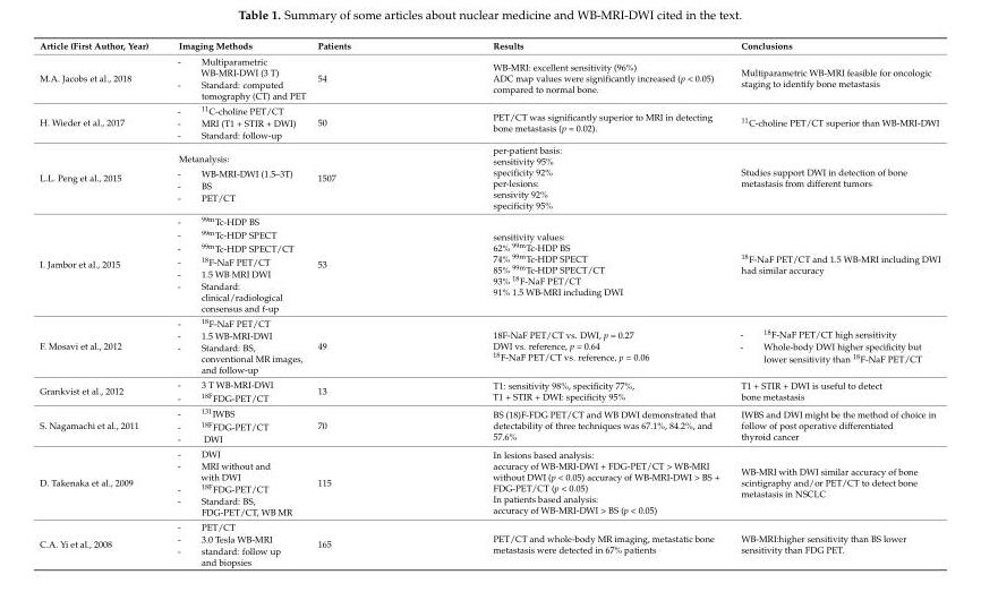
<table><thead><tr><td>Article (First Author, Year)</td><td>Imaging Methods</td><td>Patients</td><td>Results</td><td>Conclusions</td></tr></thead><tbody><tr><td>M.A. Jacobs et al., 2018</td><td>- Multiparametric WB-MRI-DWI (3 T) - Standard: computed tomography (CT) and PET</td><td>54</td><td>WB-MRI: excellent sensitivity (96%) ADC map values were significantly increased (p &lt; 0.05) compared to normal bone.</td><td>Multiparametric WB-MRI feasible for oncologic staging to identify bone metastasis</td></tr><tr><td>H. Wieder et al., 2017</td><td>- <sup>11</sup>C-choline PET/CT - MRI (T1 + STIR + DWI) - Standard: follow-up</td><td>50</td><td>PET/CT was significantly superior to MRI in detecting bone metastasis (p = 0.02).</td><td><sup>11</sup>C-choline PET/CT superior than WB-MRI-DWI</td></tr><tr><td>L.L. Peng et al., 2015</td><td>Metanalysis: - WB-MRI-DWI (1.5–3T) - BS - PET/CT</td><td>1507</td><td>per-patient basis: sensitivity 95% specificity 92% per-lesions: sensivity 92% specificity 95%</td><td>Studies support DWI in detection of bone metastasis from different tumors</td></tr><tr><td>I. Jambor et al., 2015</td><td>- <sup>99m</sup>Tc-HDP BS - <sup>99m</sup>Tc-HDP SPECT - <sup>99m</sup>Tc-HDP SPECT/CT - <sup>18</sup>F-NaF PET/CT - 1.5 WB MRI DWI - Standard: clinical/radiological consensus and f-up</td><td>53</td><td>sensitivity values: 62% <sup>99m</sup>Tc-HDP BS 74% <sup>99m</sup>Tc-HDP SPECT 85% <sup>99m</sup>Tc-HDP SPECT/CT 93% <sup>18</sup>F-NaF PET/CT 91% 1.5 WB-MRI including DWI</td><td><sup>18</sup>F-NaF PET/CT and 1.5 WB-MRI including DWI had similar accuracy</td></tr><tr><td>F. Mosavi et al., 2012</td><td>- <sup>18</sup>F-NaF PET/CT - 1.5 WB-MRI-DWI - Standard: BS, conventional MR images, and follow-up</td><td>49</td><td>18F-NaF PET/CT vs. DWI, p = 0.27 DWI vs. reference, p = 0.64 <sup>18</sup>F-NaF PET/CT vs. reference, p = 0.06</td><td>- <sup>18</sup>F-NaF PET/CT high sensitivity - Whole-body DWI higher specificity but lower sensitivity than <sup>18</sup>F-NaF PET/CT</td></tr><tr><td>Grankvist et al., 2012</td><td>- 3 T WB-MRI-DWI - <sup>18F</sup>FDG-PET/CT</td><td>13</td><td>T1: sensitivity 98%, specificity 77%, T1 + STIR + DWI: specificity 95%</td><td>T1 + STIR + DWI is useful to detect bone metastasis</td></tr><tr><td>S. Nagamachi et al., 2011</td><td>- <sup>131</sup>IWBS - <sup>18F</sup>FDG-PET/CT - DWI</td><td>70</td><td>BS (18)F-FDG PET/CT and WB DWI demonstrated that detectability of three techniques was 67.1%, 84.2%, and 57.6%</td><td>IWBS and DWI might be the method of choice in follow of post operative differentiated thyroid cancer</td></tr><tr><td>D. Takenaka et al., 2009</td><td>- DWI - MRI without and with DWI - <sup>18F</sup>FDG-PET/CT - Standard: BS, FDG-PET/CT, WB MR</td><td>115</td><td>In lesions based analysis: accuracy of WB-MRI-DWI + FDG-PET/CT &gt; WB-MRI without DWI (p &lt; 0.05) accuracy of WB-MRI-DWI &gt; BS + FDG-PET/CT (p &lt; 0.05) In patients based analysis: accuracy of WB-MRI-DWI &gt; BS (p &lt; 0.05)</td><td>WB-MRI with DWI similar accuracy of bone scintigraphy and/or PET/CT to detect bone metastasis in NSCLC</td></tr><tr><td>C.A. Yi et al., 2008</td><td>- PET/CT - 3.0 Tesla WB-MRI - standard: follow up and biopsies</td><td>165</td><td>PET/CT and whole-body MR imaging, metastatic bone metastasis were detected in 67% patients</td><td>WB-MRI:higher sensitivity than BS lower sensitivity than FDG PET.</td></tr></tbody></table>